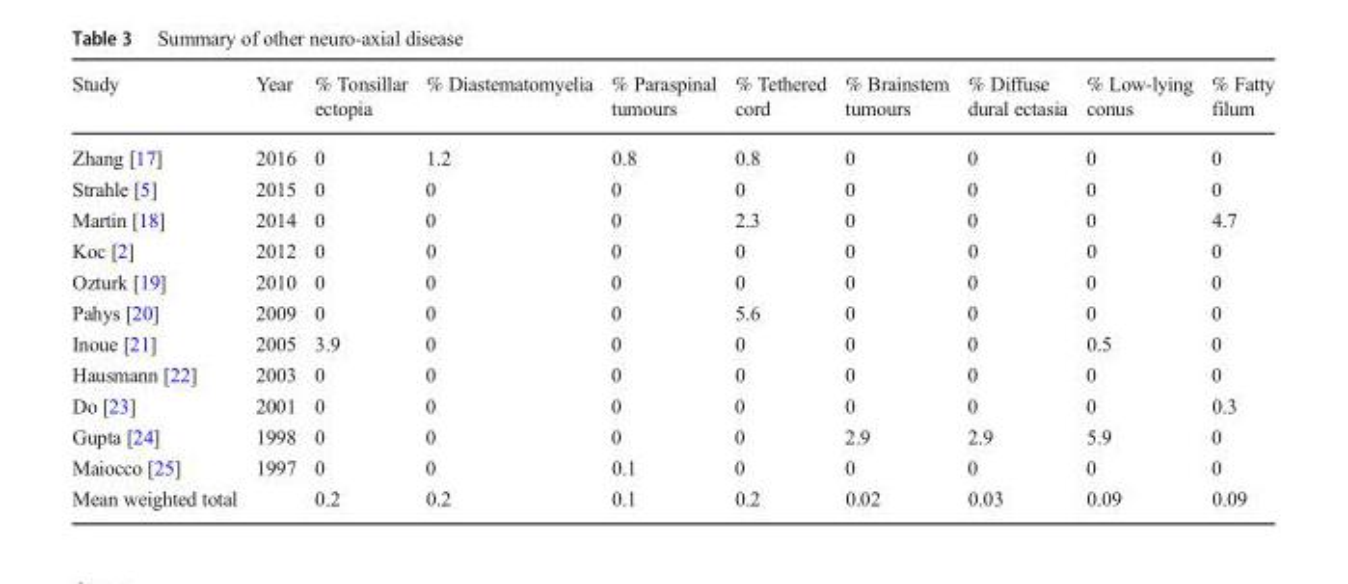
<table><thead><tr><td>Study</td><td>Year</td><td>% Tonsillar ectopia</td><td>% Diastematomyelia</td><td>% Paraspinal tumours</td><td>% Tethered cord</td><td>% Brainstem tumours</td><td>% Diffuse dural ectasia</td><td>% Low-lying conus</td><td>% Fatty filum</td></tr></thead><tbody><tr><td>Zhang [17]</td><td>2016</td><td>0</td><td>1.2</td><td>0.8</td><td>0.8</td><td>0</td><td>0</td><td>0</td><td>0</td></tr><tr><td>Strahle [5]</td><td>2015</td><td>0</td><td>0</td><td>0</td><td>0</td><td>0</td><td>0</td><td>0</td><td>0</td></tr><tr><td>Martin [18]</td><td>2014</td><td>0</td><td>0</td><td>0</td><td>2.3</td><td>0</td><td>0</td><td>0</td><td>4.7</td></tr><tr><td>Koc [2]</td><td>2012</td><td>0</td><td>0</td><td>0</td><td>0</td><td>0</td><td>0</td><td>0</td><td>0</td></tr><tr><td>Ozturk [19]</td><td>2010</td><td>0</td><td>0</td><td>0</td><td>0</td><td>0</td><td>0</td><td>0</td><td>0</td></tr><tr><td>Pahys [20]</td><td>2009</td><td>0</td><td>0</td><td>0</td><td>5.6</td><td>0</td><td>0</td><td>0</td><td>0</td></tr><tr><td>Inoue [21]</td><td>2005</td><td>3.9</td><td>0</td><td>0</td><td>0</td><td>0</td><td>0</td><td>0.5</td><td>0</td></tr><tr><td>Hausmann [22]</td><td>2003</td><td>0</td><td>0</td><td>0</td><td>0</td><td>0</td><td>0</td><td>0</td><td>0</td></tr><tr><td>Do [23]</td><td>2001</td><td>0</td><td>0</td><td>0</td><td>0</td><td>0</td><td>0</td><td>0</td><td>0.3</td></tr><tr><td>Gupta [24]</td><td>1998</td><td>0</td><td>0</td><td>0</td><td>0</td><td>2.9</td><td>2.9</td><td>5.9</td><td>0</td></tr><tr><td>Maiocco [25]</td><td>1997</td><td>0</td><td>0</td><td>0.1</td><td>0</td><td>0</td><td>0</td><td>0</td><td>0</td></tr><tr><td>Mean weighted total</td><td></td><td>0.2</td><td>0.2</td><td>0.1</td><td>0.2</td><td>0.02</td><td>0.03</td><td>0.09</td><td>0.09</td></tr></tbody></table>